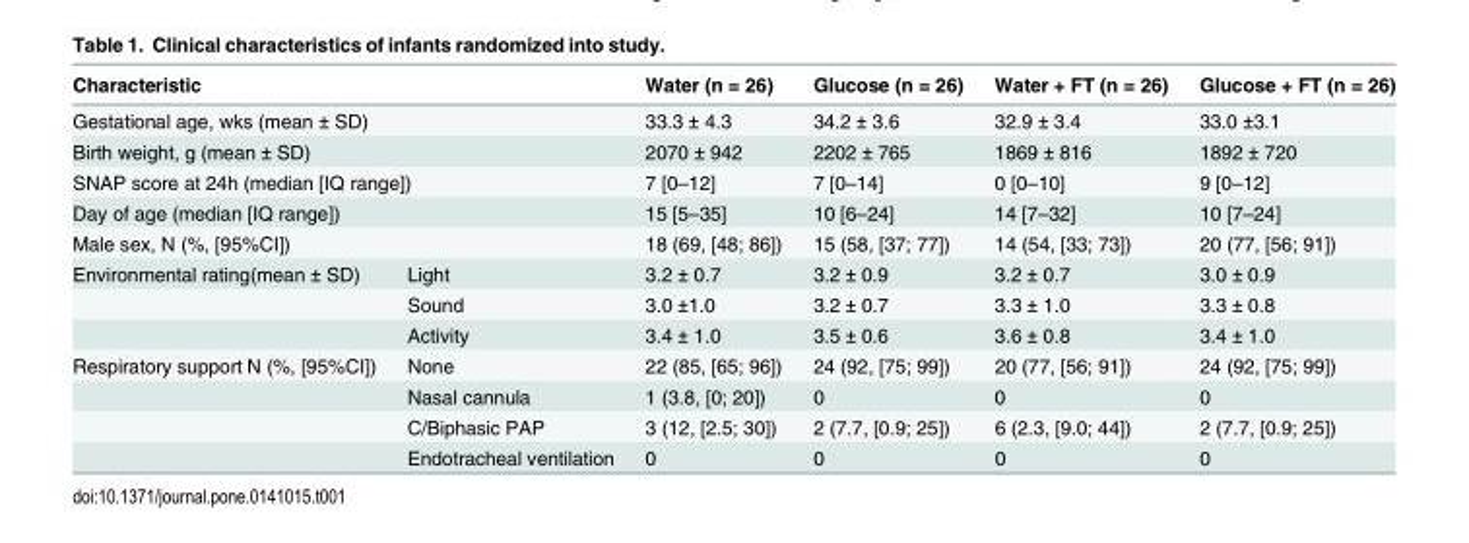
<table><thead><tr><td colspan="2">Characteristic</td><td>Water (n = 26)</td><td>Glucose (n = 26)</td><td>Water + FT (n = 26)</td><td>Glucose + FT (n = 26)</td></tr></thead><tbody><tr><td colspan="2">Gestational age, wks (mean ± SD)</td><td>33.3 ± 4.3</td><td>34.2 ± 3.6</td><td>32.9 ± 3.4</td><td>33.0 ±3.1</td></tr><tr><td colspan="2">Birth weight, g (mean ± SD)</td><td>2070 ± 942</td><td>2202 ± 765</td><td>1869 ± 816</td><td>1892 ± 720</td></tr><tr><td colspan="2">SNAP score at 24h (median [IQ range])</td><td>7 [0–12]</td><td>7 [0–14]</td><td>0 [0–10]</td><td>9 [0–12]</td></tr><tr><td colspan="2">Day of age (median [IQ range])</td><td>15 [5–35]</td><td>10 [6–24]</td><td>14 [7–32]</td><td>10 [7–24]</td></tr><tr><td colspan="2">Male sex, N (%, [95%CI])</td><td>18 (69, [48; 86])</td><td>15 (58, [37; 77])</td><td>14 (54, [33; 73])</td><td>20 (77, [56; 91])</td></tr><tr><td rowspan="3">Environmental rating(mean ± SD)</td><td>Light</td><td>3.2 ± 0.7</td><td>3.2 ± 0.9</td><td>3.2 ± 0.7</td><td>3.0 ± 0.9</td></tr><tr><td>Sound</td><td>3.0 ±1.0</td><td>3.2 ± 0.7</td><td>3.3 ± 1.0</td><td>3.3 ± 0.8</td></tr><tr><td>Activity</td><td>3.4 ± 1.0</td><td>3.5 ± 0.6</td><td>3.6 ± 0.8</td><td>3.4 ± 1.0</td></tr><tr><td rowspan="4">Respiratory support N (%, [95%CI])</td><td>None</td><td>22 (85, [65; 96])</td><td>24 (92, [75; 99])</td><td>20 (77, [56; 91])</td><td>24 (92, [75; 99])</td></tr><tr><td>Nasal cannula</td><td>1 (3.8, [0; 20])</td><td>0</td><td>0</td><td>0</td></tr><tr><td>C/Biphasic PAP</td><td>3 (12, [2.5; 30])</td><td>2 (7.7, [0.9; 25])</td><td>6 (2.3, [9.0; 44])</td><td>2 (7.7, [0.9; 25])</td></tr><tr><td>Endotracheal ventilation</td><td>0</td><td>0</td><td>0</td><td>0</td></tr></tbody></table>